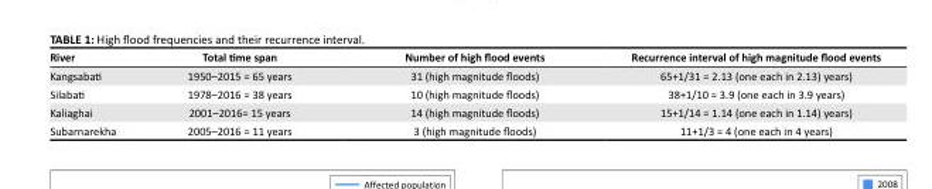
<table><thead><tr><td>River</td><td>Total time span</td><td>Number of high flood events</td><td>Recurrence interval of high magnitude flood events</td></tr></thead><tbody><tr><td>Kangsabati</td><td>1950–2015 = 65 years</td><td>31 (high magnitude floods)</td><td>65+1/31 = 2.13 (one each in 2.13) years)</td></tr><tr><td>Silabati</td><td>1978–2016 = 38 years</td><td>10 (high magnitude floods)</td><td>38+1/10 = 3.9 (one each in 3.9 years)</td></tr><tr><td>Kaliaghai</td><td>2001–2016= 15 years</td><td>14 (high magnitude floods)</td><td>15+1/14 = 1.14 (one each in 1.14) years)</td></tr><tr><td>Subarnarekha</td><td>2005–2016 = 11 years</td><td>3 (high magnitude floods)</td><td>11+1/3 = 4 (one each in 4 years)</td></tr></tbody></table>